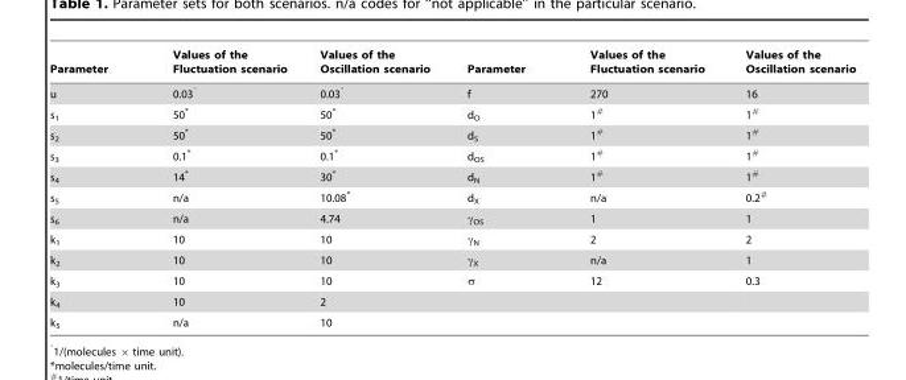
<table><thead><tr><td>Parameter</td><td>Values of the Fluctuation scenario</td><td>Values of the Oscillation scenario</td><td>Parameter</td><td>Values of the Fluctuation scenario</td><td>Values of the Oscillation scenario</td></tr></thead><tbody><tr><td>u</td><td>0.03°</td><td>0.03°</td><td>f</td><td>270</td><td>16</td></tr><tr><td>s<sub>1</sub></td><td>50*</td><td>50*</td><td>d<sub>O</sub></td><td>1#</td><td>1#</td></tr><tr><td>s<sub>2</sub></td><td>50*</td><td>50*</td><td>d<sub>S</sub></td><td>1#</td><td>1#</td></tr><tr><td>s<sub>3</sub></td><td>0.1*</td><td>0.1*</td><td>d<sub>OS</sub></td><td>1#</td><td>1#</td></tr><tr><td>s<sub>4</sub></td><td>14*</td><td>30*</td><td>d<sub>N</sub></td><td>1#</td><td>1#</td></tr><tr><td>s<sub>5</sub></td><td>n/a</td><td>10.08*</td><td>d<sub>X</sub></td><td>n/a</td><td>0.2#</td></tr><tr><td>s<sub>6</sub></td><td>n/a</td><td>4.74</td><td>γ<sub>OS</sub></td><td>1</td><td>1</td></tr><tr><td>k<sub>1</sub></td><td>10</td><td>10</td><td>γ<sub>N</sub></td><td>2</td><td>2</td></tr><tr><td>k<sub>2</sub></td><td>10</td><td>10</td><td>γ<sub>X</sub></td><td>n/a</td><td>1</td></tr><tr><td>k<sub>3</sub></td><td>10</td><td>10</td><td>σ</td><td>12</td><td>0.3</td></tr><tr><td>k<sub>4</sub></td><td>10</td><td>2</td><td></td><td></td><td></td></tr><tr><td>k<sub>5</sub></td><td>n/a</td><td>10</td><td></td><td></td><td></td></tr></tbody></table>